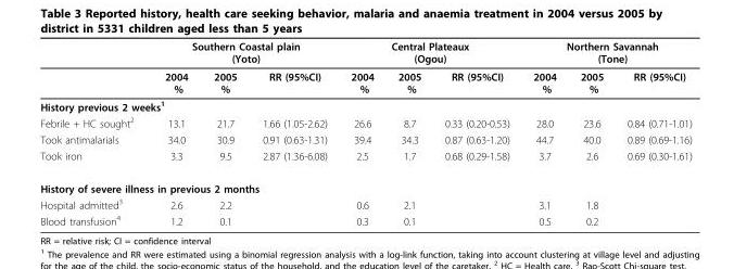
<table><thead><tr><td rowspan="2"></td><td colspan="3">Southern Coastal plain (Yoto)</td><td colspan="3">Central Plateaux (Ogou)</td><td colspan="3">Northern Savannah (Tone)</td></tr><tr><td>2004 %</td><td>2005 %</td><td>RR (95%CI)</td><td>2004 %</td><td>2005 %</td><td>RR (95%CI)</td><td>2004 %</td><td>2005 %</td><td>RR (95%CI)</td></tr></thead><tbody><tr><td colspan="10">History previous 2 weeks<sup>1</sup></td></tr><tr><td>Febrile + HC sought<sup>2</sup></td><td>13.1</td><td>21.7</td><td>1.66 (1.05-2.62)</td><td>26.6</td><td>8.7</td><td>0.33 (0.20-0.53)</td><td>28.0</td><td>23.6</td><td>0.84 (0.71-1.01)</td></tr><tr><td>Took antimalarials</td><td>34.0</td><td>30.9</td><td>0.91 (0.63-1.31)</td><td>39.4</td><td>34.3</td><td>0.87 (0.63-1.20)</td><td>44.7</td><td>40.0</td><td>0.89 (0.69-1.16)</td></tr><tr><td>Took iron</td><td>3.3</td><td>9.5</td><td>2.87 (1.36-6.08)</td><td>2.5</td><td>1.7</td><td>0.68 (0.29-1.58)</td><td>3.7</td><td>2.6</td><td>0.69 (0.30-1.61)</td></tr><tr><td colspan="10">History of severe illness in previous 2 months</td></tr><tr><td>Hospital admitted<sup>3</sup></td><td>2.6</td><td>2.2</td><td></td><td>0.6</td><td>2.1</td><td></td><td>3.1</td><td>1.8</td><td></td></tr><tr><td>Blood transfusion<sup>4</sup></td><td>1.2</td><td>0.1</td><td></td><td>0.3</td><td>0.1</td><td></td><td>0.5</td><td>0.2</td><td></td></tr></tbody></table>